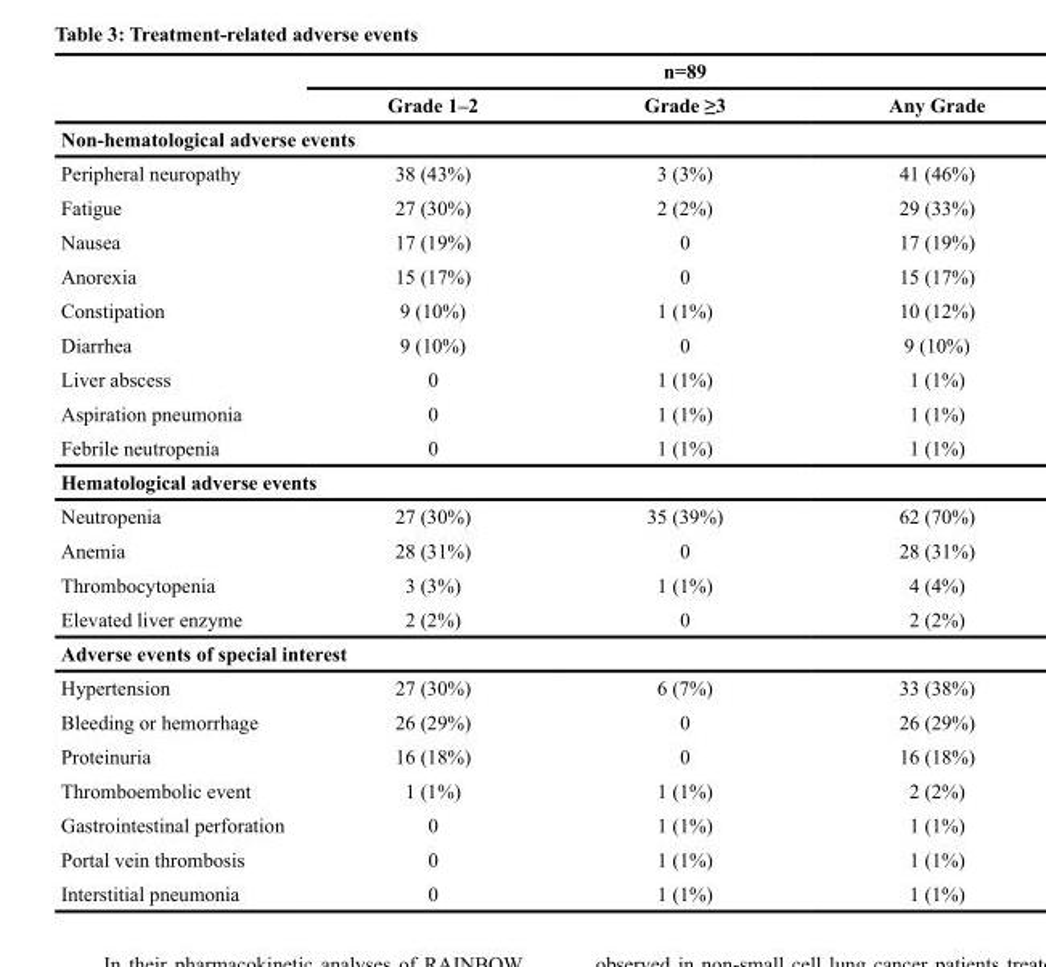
<table><thead><tr><td rowspan="2"></td><td colspan="3">n=89</td></tr><tr><td>Grade 1–2</td><td>Grade ≥3</td><td>Any Grade</td></tr></thead><tbody><tr><td colspan="4">Non-hematological adverse events</td></tr><tr><td>Peripheral neuropathy</td><td>38 (43%)</td><td>3 (3%)</td><td>41 (46%)</td></tr><tr><td>Fatigue</td><td>27 (30%)</td><td>2 (2%)</td><td>29 (33%)</td></tr><tr><td>Nausea</td><td>17 (19%)</td><td>0</td><td>17 (19%)</td></tr><tr><td>Anorexia</td><td>15 (17%)</td><td>0</td><td>15 (17%)</td></tr><tr><td>Constipation</td><td>9 (10%)</td><td>1 (1%)</td><td>10 (12%)</td></tr><tr><td>Diarrhea</td><td>9 (10%)</td><td>0</td><td>9 (10%)</td></tr><tr><td>Liver abscess</td><td>0</td><td>1 (1%)</td><td>1 (1%)</td></tr><tr><td>Aspiration pneumonia</td><td>0</td><td>1 (1%)</td><td>1 (1%)</td></tr><tr><td>Febrile neutropenia</td><td>0</td><td>1 (1%)</td><td>1 (1%)</td></tr><tr><td colspan="4">Hematological adverse events</td></tr><tr><td>Neutropenia</td><td>27 (30%)</td><td>35 (39%)</td><td>62 (70%)</td></tr><tr><td>Anemia</td><td>28 (31%)</td><td>0</td><td>28 (31%)</td></tr><tr><td>Thrombocytopenia</td><td>3 (3%)</td><td>1 (1%)</td><td>4 (4%)</td></tr><tr><td>Elevated liver enzyme</td><td>2 (2%)</td><td>0</td><td>2 (2%)</td></tr><tr><td colspan="4">Adverse events of special interest</td></tr><tr><td>Hypertension</td><td>27 (30%)</td><td>6 (7%)</td><td>33 (38%)</td></tr><tr><td>Bleeding or hemorrhage</td><td>26 (29%)</td><td>0</td><td>26 (29%)</td></tr><tr><td>Proteinuria</td><td>16 (18%)</td><td>0</td><td>16 (18%)</td></tr><tr><td>Thromboembolic event</td><td>1 (1%)</td><td>1 (1%)</td><td>2 (2%)</td></tr><tr><td>Gastrointestinal perforation</td><td>0</td><td>1 (1%)</td><td>1 (1%)</td></tr><tr><td>Portal vein thrombosis</td><td>0</td><td>1 (1%)</td><td>1 (1%)</td></tr><tr><td>Interstitial pneumonia</td><td>0</td><td>1 (1%)</td><td>1 (1%)</td></tr></tbody></table>